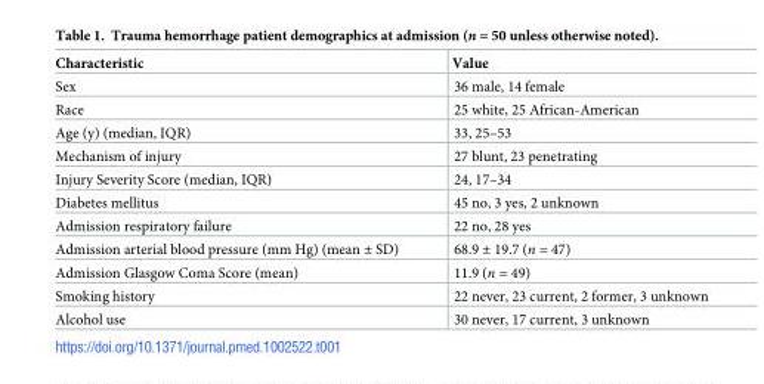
<table><thead><tr><td>Characteristic</td><td>Value</td></tr></thead><tbody><tr><td>Sex</td><td>36 male, 14 female</td></tr><tr><td>Race</td><td>25 white, 25 African-American</td></tr><tr><td>Age (y) (median, IQR)</td><td>33, 25–53</td></tr><tr><td>Mechanism of injury</td><td>27 blunt, 23 penetrating</td></tr><tr><td>Injury Severity Score (median, IQR)</td><td>24, 17–34</td></tr><tr><td>Diabetes mellitus</td><td>45 no, 3 yes, 2 unknown</td></tr><tr><td>Admission respiratory failure</td><td>22 no, 28 yes</td></tr><tr><td>Admission arterial blood pressure (mm Hg) (mean ± SD)</td><td>68.9 ± 19.7 (n = 47)</td></tr><tr><td>Admission Glasgow Coma Score (mean)</td><td>11.9 (n = 49)</td></tr><tr><td>Smoking history</td><td>22 never, 23 current, 2 former, 3 unknown</td></tr><tr><td>Alcohol use</td><td>30 never, 17 current, 3 unknown</td></tr></tbody></table>